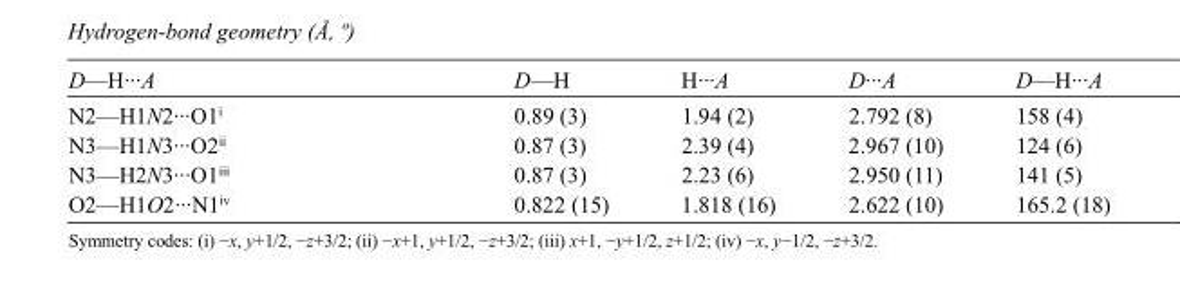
<table><tbody><tr><td>D—H···A</td><td>D—H</td><td>H···A</td><td>D···A</td><td>D—H···A</td></tr><tr><td>N2—H1N2···O1<sup>i</sup></td><td>0.89 (3)</td><td>1.94 (2)</td><td>2.792 (8)</td><td>158 (4)</td></tr><tr><td>N3—H1N3···O2<sup>ii</sup></td><td>0.87 (3)</td><td>2.39 (4)</td><td>2.967 (10)</td><td>124 (6)</td></tr><tr><td>N3—H2N3···O1<sup>iii</sup></td><td>0.87 (3)</td><td>2.23 (6)</td><td>2.950 (11)</td><td>141 (5)</td></tr><tr><td>O2—H1O2···N1<sup>iv</sup></td><td>0.822 (15)</td><td>1.818 (16)</td><td>2.622 (10)</td><td>165.2 (18)</td></tr></tbody></table>